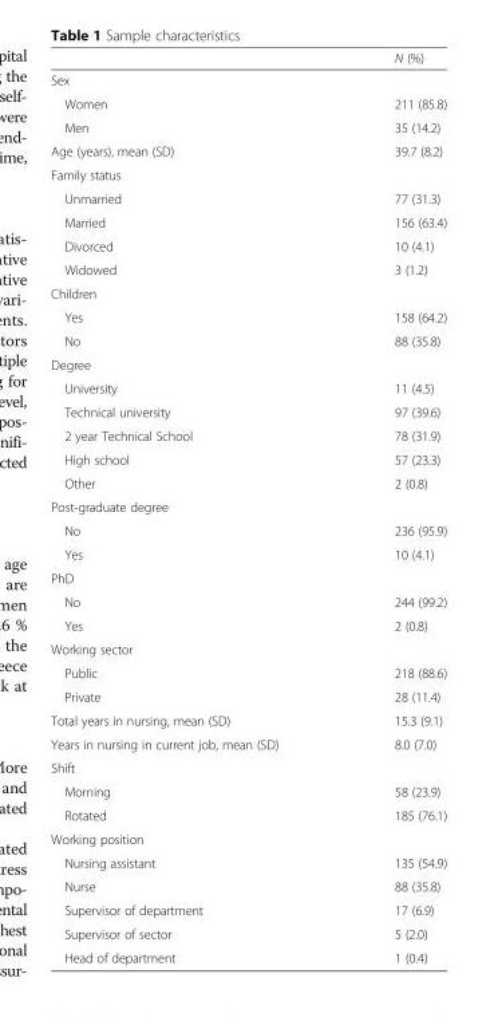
<table><thead><tr><td></td><td>N (%)</td></tr></thead><tbody><tr><td colspan="2">Sex</td></tr><tr><td>Women</td><td>211 (85.8)</td></tr><tr><td>Men</td><td>35 (14.2)</td></tr><tr><td>Age (years), mean (SD)</td><td>39.7 (8.2)</td></tr><tr><td colspan="2">Family status</td></tr><tr><td>Unmarried</td><td>77 (31.3)</td></tr><tr><td>Married</td><td>156 (63.4)</td></tr><tr><td>Divorced</td><td>10 (4.1)</td></tr><tr><td>Widowed</td><td>3 (1.2)</td></tr><tr><td colspan="2">Children</td></tr><tr><td>Yes</td><td>158 (64.2)</td></tr><tr><td>No</td><td>88 (35.8)</td></tr><tr><td colspan="2">Degree</td></tr><tr><td>University</td><td>11 (4.5)</td></tr><tr><td>Technical university</td><td>97 (39.6)</td></tr><tr><td>2 year Technical School</td><td>78 (31.9)</td></tr><tr><td>High school</td><td>57 (23.3)</td></tr><tr><td>Other</td><td>2 (0.8)</td></tr><tr><td colspan="2">Post-graduate degree</td></tr><tr><td>No</td><td>236 (95.9)</td></tr><tr><td>Yes</td><td>10 (4.1)</td></tr><tr><td colspan="2">PhD</td></tr><tr><td>No</td><td>244 (99.2)</td></tr><tr><td>Yes</td><td>2 (0.8)</td></tr><tr><td colspan="2">Working sector</td></tr><tr><td>Public</td><td>218 (88.6)</td></tr><tr><td>Private</td><td>28 (11.4)</td></tr><tr><td>Total years in nursing, mean (SD)</td><td>15.3 (9.1)</td></tr><tr><td>Years in nursing in current job, mean (SD)</td><td>8.0 (7.0)</td></tr><tr><td colspan="2">Shift</td></tr><tr><td>Morning</td><td>58 (23.9)</td></tr><tr><td>Rotated</td><td>185 (76.1)</td></tr><tr><td colspan="2">Working position</td></tr><tr><td>Nursing assistant</td><td>135 (54.9)</td></tr><tr><td>Nurse</td><td>88 (35.8)</td></tr><tr><td>Supervisor of department</td><td>17 (6.9)</td></tr><tr><td>Supervisor of sector</td><td>5 (2.0)</td></tr><tr><td>Head of department</td><td>1 (0.4)</td></tr></tbody></table>